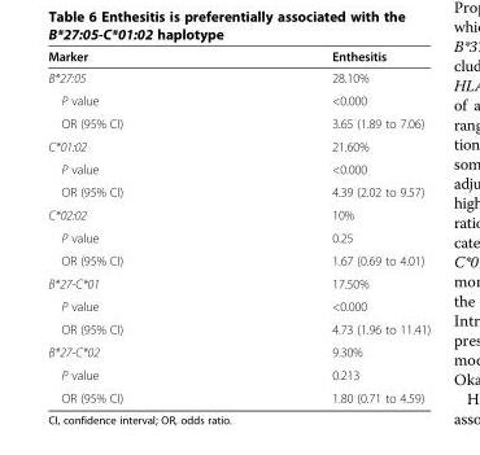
<table><thead><tr><td>Marker</td><td>Enthesitis</td></tr></thead><tbody><tr><td>B*27:05</td><td>28.10%</td></tr><tr><td>P value</td><td>&lt;0.000</td></tr><tr><td>OR (95% CI)</td><td>3.65 (1.89 to 7.06)</td></tr><tr><td>C*01:02</td><td>21.60%</td></tr><tr><td>P value</td><td>&lt;0.000</td></tr><tr><td>OR (95% CI)</td><td>4.39 (2.02 to 9.57)</td></tr><tr><td>C*02:02</td><td>10%</td></tr><tr><td>P value</td><td>0.25</td></tr><tr><td>OR (95% CI)</td><td>1.67 (0.69 to 4.01)</td></tr><tr><td>B*27-C*01</td><td>17.50%</td></tr><tr><td>P value</td><td>&lt;0.000</td></tr><tr><td>OR (95% CI)</td><td>4.73 (1.96 to 11.41)</td></tr><tr><td>B*27-C*02</td><td>9.30%</td></tr><tr><td>P value</td><td>0.213</td></tr><tr><td>OR (95% CI)</td><td>1.80 (0.71 to 4.59)</td></tr></tbody></table>